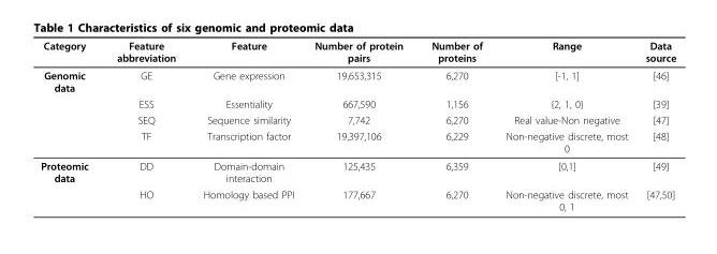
<table><thead><tr><td>Category</td><td>Feature abbreviation</td><td>Feature</td><td>Number of protein pairs</td><td>Number of proteins</td><td>Range</td><td>Data source</td></tr></thead><tbody><tr><td rowspan="4">Genomic data</td><td>GE</td><td>Gene expression</td><td>19,653,315</td><td>6,270</td><td>[-1, 1]</td><td>[46]</td></tr><tr><td>ESS</td><td>Essentiality</td><td>667,590</td><td>1,156</td><td>{2, 1, 0}</td><td>[39]</td></tr><tr><td>SEQ</td><td>Sequence similarity</td><td>7,742</td><td>6,270</td><td>Real value-Non negative</td><td>[47]</td></tr><tr><td>TF</td><td>Transcription factor</td><td>19,397,106</td><td>6,229</td><td>Non-negative discrete, most 0</td><td>[48]</td></tr><tr><td rowspan="2">Proteomic data</td><td>DD</td><td>Domain-domain interaction</td><td>125,435</td><td>6,359</td><td>[0,1]</td><td>[49]</td></tr><tr><td>HO</td><td>Homology based PPI</td><td>177,667</td><td>6,270</td><td>Non-negative discrete, most 0, 1</td><td>[47,50]</td></tr></tbody></table>